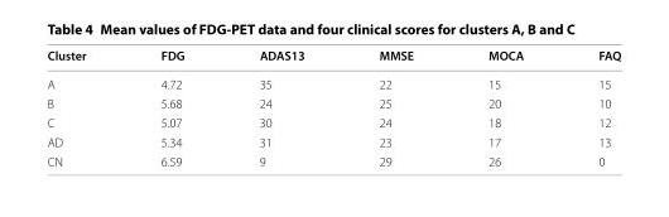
<table><thead><tr><td>Cluster</td><td>FDG</td><td>ADAS13</td><td>MMSE</td><td>MOCA</td><td>FAQ</td></tr></thead><tbody><tr><td>A</td><td>4.72</td><td>35</td><td>22</td><td>15</td><td>15</td></tr><tr><td>B</td><td>5.68</td><td>24</td><td>25</td><td>20</td><td>10</td></tr><tr><td>C</td><td>5.07</td><td>30</td><td>24</td><td>18</td><td>12</td></tr><tr><td>AD</td><td>5.34</td><td>31</td><td>23</td><td>17</td><td>13</td></tr><tr><td>CN</td><td>6.59</td><td>9</td><td>29</td><td>26</td><td>0</td></tr></tbody></table>